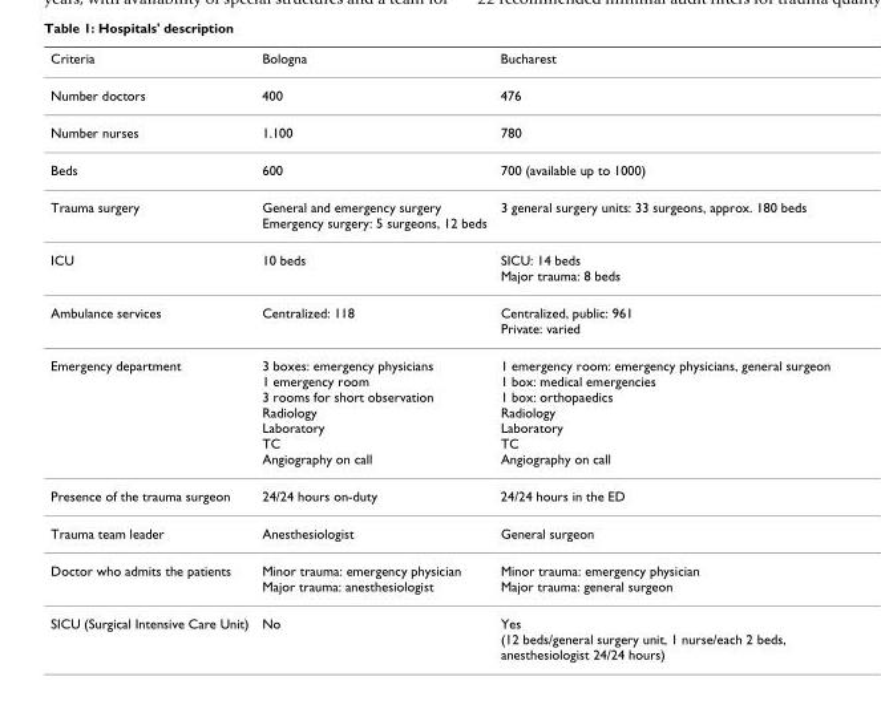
<table><thead><tr><td>Criteria</td><td>Bologna</td><td>Bucharest</td></tr></thead><tbody><tr><td>Number doctors</td><td>400</td><td>476</td></tr><tr><td>Number nurses</td><td>1.100</td><td>780</td></tr><tr><td>Beds</td><td>600</td><td>700 (available up to 1000)</td></tr><tr><td>Trauma surgery</td><td>General and emergency surgery Emergency surgery: 5 surgeons, 12 beds</td><td>3 general surgery units: 33 surgeons, approx. 180 beds</td></tr><tr><td>ICU</td><td>10 beds</td><td>SICU: 14 beds Major trauma: 8 beds</td></tr><tr><td>Ambulance services</td><td>Centralized: 118</td><td>Centralized, public: 961 Private: varied</td></tr><tr><td>Emergency department</td><td>3 boxes: emergency physicians 1 emergency room 3 rooms for short observation Radiology Laboratory TC Angiography on call</td><td>1 emergency room: emergency physicians, general surgeon 1 box: medical emergencies 1 box: orthopaedics Radiology Laboratory TC Angiography on call</td></tr><tr><td>Presence of the trauma surgeon</td><td>24/24 hours on-duty</td><td>24/24 hours in the ED</td></tr><tr><td>Trauma team leader</td><td>Anesthesiologist</td><td>General surgeon</td></tr><tr><td>Doctor who admits the patients</td><td>Minor trauma: emergency physician Major trauma: anesthesiologist</td><td>Minor trauma: emergency physician Major trauma: general surgeon</td></tr><tr><td>SICU (Surgical Intensive Care Unit)</td><td>No</td><td>Yes (12 beds/general surgery unit, 1 nurse/each 2 beds, anesthesiologist 24/24 hours)</td></tr></tbody></table>